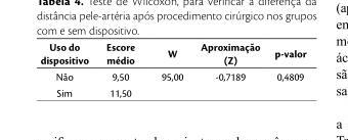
<table><thead><tr><td>Uso do dispositivo</td><td>Escore médio</td><td>W</td><td>Aproximação (Z)</td><td>p-valor</td></tr></thead><tbody><tr><td>Não</td><td>9,50</td><td rowspan="2">95,00</td><td rowspan="2">-0,7189</td><td rowspan="2">0,4809</td></tr><tr><td>Sim</td><td>11,50</td></tr></tbody></table>